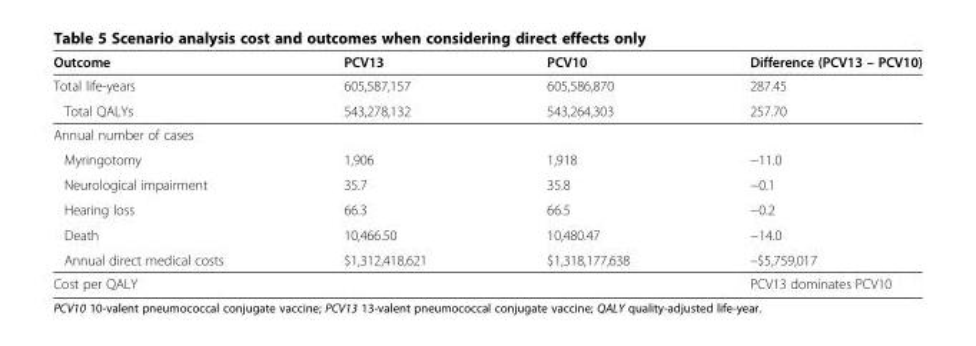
<table><thead><tr><td>Outcome</td><td>PCV13</td><td>PCV10</td><td>Difference (PCV13 – PCV10)</td></tr></thead><tbody><tr><td>Total life-years</td><td>605,587,157</td><td>605,586,870</td><td>287.45</td></tr><tr><td>Total QALYs</td><td>543,278,132</td><td>543,264,303</td><td>257.70</td></tr><tr><td colspan="4">Annual number of cases</td></tr><tr><td>Myringotomy</td><td>1,906</td><td>1,918</td><td>−11.0</td></tr><tr><td>Neurological impairment</td><td>35.7</td><td>35.8</td><td>−0.1</td></tr><tr><td>Hearing loss</td><td>66.3</td><td>66.5</td><td>−0.2</td></tr><tr><td>Death</td><td>10,466.50</td><td>10,480.47</td><td>−14.0</td></tr><tr><td>Annual direct medical costs</td><td>$1,312,418,621</td><td>$1,318,177,638</td><td>–$5,759,017</td></tr><tr><td colspan="3">Cost per QALY</td><td>PCV13 dominates PCV10</td></tr></tbody></table>